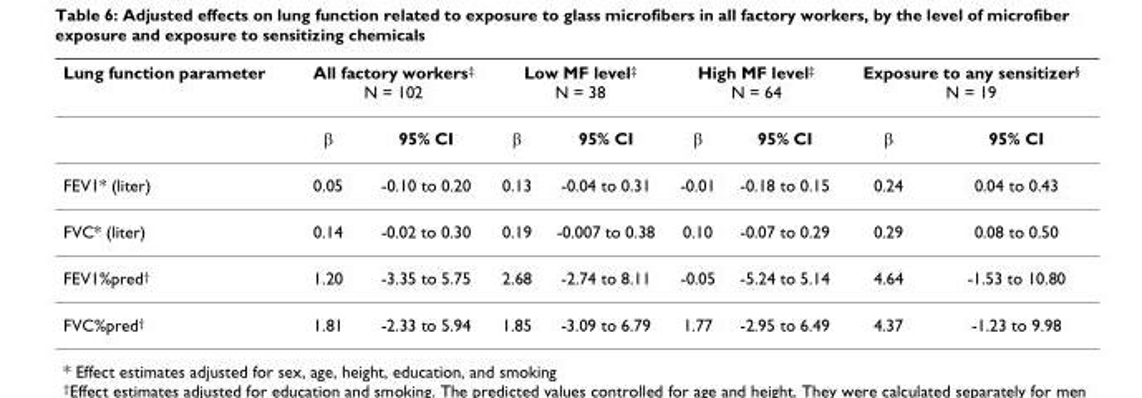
<table><thead><tr><td rowspan="2">Lung function parameter</td><td colspan="2">All factory workers<sup>‡</sup> N = 102</td><td colspan="2">Low MF level<sup>‡</sup> N = 38</td><td colspan="2">High MF level<sup>‡</sup> N = 64</td><td colspan="2">Exposure to any sensitizer<sup>§</sup> N = 19</td></tr><tr><td>β</td><td>95% CI</td><td>β</td><td>95% CI</td><td>β</td><td>95% CI</td><td>β</td><td>95% CI</td></tr></thead><tbody><tr><td>FEV1* (liter)</td><td>0.05</td><td>-0.10 to 0.20</td><td>0.13</td><td>-0.04 to 0.31</td><td>-0.01</td><td>-0.18 to 0.15</td><td>0.24</td><td>0.04 to 0.43</td></tr><tr><td>FVC* (liter)</td><td>0.14</td><td>-0.02 to 0.30</td><td>0.19</td><td>-0.007 to 0.38</td><td>0.10</td><td>-0.07 to 0.29</td><td>0.29</td><td>0.08 to 0.50</td></tr><tr><td>FEV1%pred<sup>†</sup></td><td>1.20</td><td>-3.35 to 5.75</td><td>2.68</td><td>-2.74 to 8.11</td><td>-0.05</td><td>-5.24 to 5.14</td><td>4.64</td><td>-1.53 to 10.80</td></tr><tr><td>FVC%pred<sup>†</sup></td><td>1.81</td><td>-2.33 to 5.94</td><td>1.85</td><td>-3.09 to 6.79</td><td>1.77</td><td>-2.95 to 6.49</td><td>4.37</td><td>-1.23 to 9.98</td></tr></tbody></table>